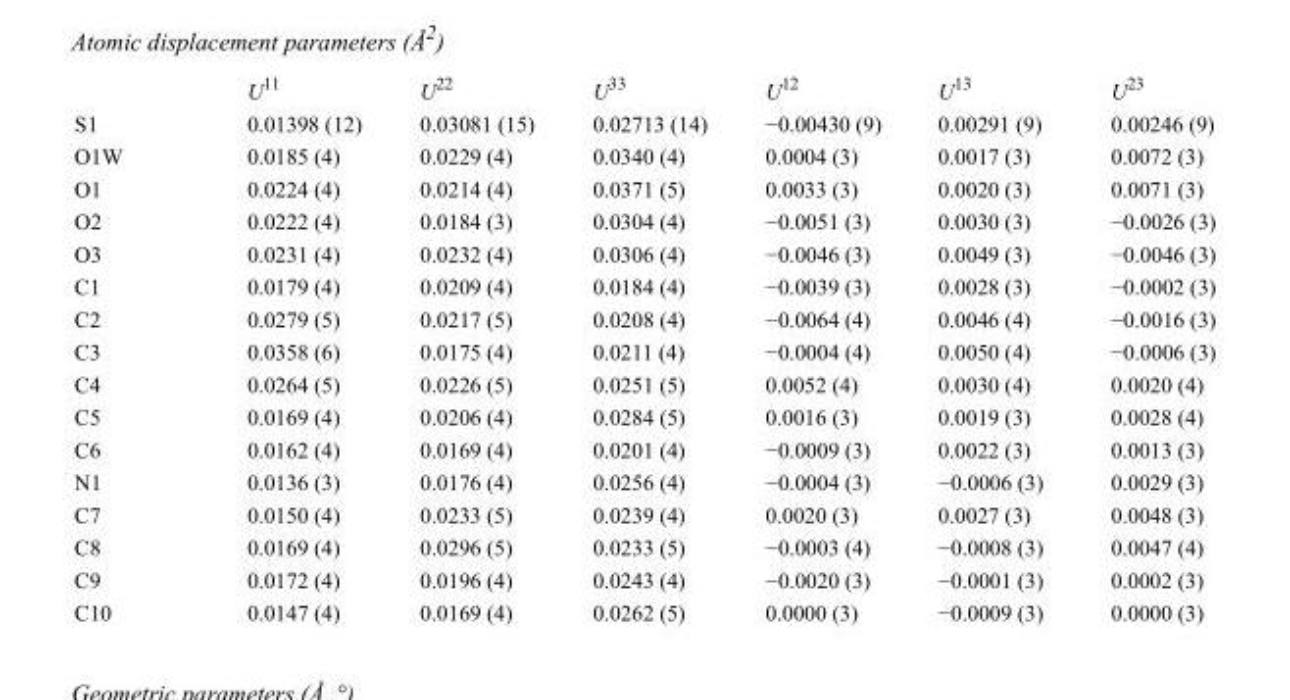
<table><thead><tr><td></td><td>U<sup>11</sup></td><td>U<sup>22</sup></td><td>U<sup>33</sup></td><td>U<sup>12</sup></td><td>U<sup>13</sup></td><td>U<sup>23</sup></td></tr></thead><tbody><tr><td>S1</td><td>0.01398 (12)</td><td>0.03081 (15)</td><td>0.02713 (14)</td><td>−0.00430 (9)</td><td>0.00291 (9)</td><td>0.00246 (9)</td></tr><tr><td>O1W</td><td>0.0185 (4)</td><td>0.0229 (4)</td><td>0.0340 (4)</td><td>0.0004 (3)</td><td>0.0017 (3)</td><td>0.0072 (3)</td></tr><tr><td>O1</td><td>0.0224 (4)</td><td>0.0214 (4)</td><td>0.0371 (5)</td><td>0.0033 (3)</td><td>0.0020 (3)</td><td>0.0071 (3)</td></tr><tr><td>O2</td><td>0.0222 (4)</td><td>0.0184 (3)</td><td>0.0304 (4)</td><td>−0.0051 (3)</td><td>0.0030 (3)</td><td>−0.0026 (3)</td></tr><tr><td>O3</td><td>0.0231 (4)</td><td>0.0232 (4)</td><td>0.0306 (4)</td><td>−0.0046 (3)</td><td>0.0049 (3)</td><td>−0.0046 (3)</td></tr><tr><td>C1</td><td>0.0179 (4)</td><td>0.0209 (4)</td><td>0.0184 (4)</td><td>−0.0039 (3)</td><td>0.0028 (3)</td><td>−0.0002 (3)</td></tr><tr><td>C2</td><td>0.0279 (5)</td><td>0.0217 (5)</td><td>0.0208 (4)</td><td>−0.0064 (4)</td><td>0.0046 (4)</td><td>−0.0016 (3)</td></tr><tr><td>C3</td><td>0.0358 (6)</td><td>0.0175 (4)</td><td>0.0211 (4)</td><td>−0.0004 (4)</td><td>0.0050 (4)</td><td>−0.0006 (3)</td></tr><tr><td>C4</td><td>0.0264 (5)</td><td>0.0226 (5)</td><td>0.0251 (5)</td><td>0.0052 (4)</td><td>0.0030 (4)</td><td>0.0020 (4)</td></tr><tr><td>C5</td><td>0.0169 (4)</td><td>0.0206 (4)</td><td>0.0284 (5)</td><td>0.0016 (3)</td><td>0.0019 (3)</td><td>0.0028 (4)</td></tr><tr><td>C6</td><td>0.0162 (4)</td><td>0.0169 (4)</td><td>0.0201 (4)</td><td>−0.0009 (3)</td><td>0.0022 (3)</td><td>0.0013 (3)</td></tr><tr><td>N1</td><td>0.0136 (3)</td><td>0.0176 (4)</td><td>0.0256 (4)</td><td>−0.0004 (3)</td><td>−0.0006 (3)</td><td>0.0029 (3)</td></tr><tr><td>C7</td><td>0.0150 (4)</td><td>0.0233 (5)</td><td>0.0239 (4)</td><td>0.0020 (3)</td><td>0.0027 (3)</td><td>0.0048 (3)</td></tr><tr><td>C8</td><td>0.0169 (4)</td><td>0.0296 (5)</td><td>0.0233 (5)</td><td>−0.0003 (4)</td><td>−0.0008 (3)</td><td>0.0047 (4)</td></tr><tr><td>C9</td><td>0.0172 (4)</td><td>0.0196 (4)</td><td>0.0243 (4)</td><td>−0.0020 (3)</td><td>−0.0001 (3)</td><td>0.0002 (3)</td></tr><tr><td>C10</td><td>0.0147 (4)</td><td>0.0169 (4)</td><td>0.0262 (5)</td><td>0.0000 (3)</td><td>−0.0009 (3)</td><td>0.0000 (3)</td></tr></tbody></table>